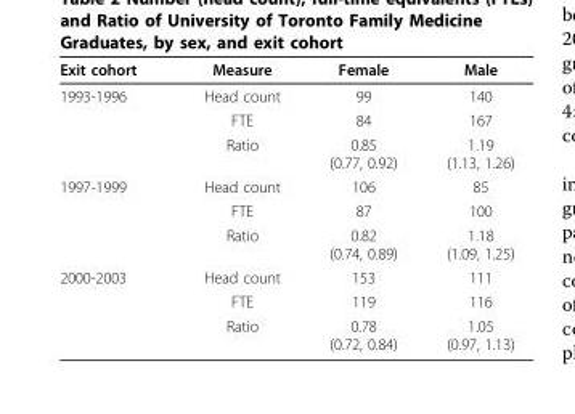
<table><thead><tr><td>Exit cohort</td><td>Measure</td><td>Female</td><td>Male</td></tr></thead><tbody><tr><td rowspan="3">1993-1996</td><td>Head count</td><td>99</td><td>140</td></tr><tr><td>FTE</td><td>84</td><td>167</td></tr><tr><td>Ratio</td><td>0.85 (0.77, 0.92)</td><td>1.19 (1.13, 1.26)</td></tr><tr><td rowspan="3">1997-1999</td><td>Head count</td><td>106</td><td>85</td></tr><tr><td>FTE</td><td>87</td><td>100</td></tr><tr><td>Ratio</td><td>0.82 (0.74, 0.89)</td><td>1.18 (1.09, 1.25)</td></tr><tr><td rowspan="3">2000-2003</td><td>Head count</td><td>153</td><td>111</td></tr><tr><td>FTE</td><td>119</td><td>116</td></tr><tr><td>Ratio</td><td>0.78 (0.72, 0.84)</td><td>1.05 (0.97, 1.13)</td></tr></tbody></table>